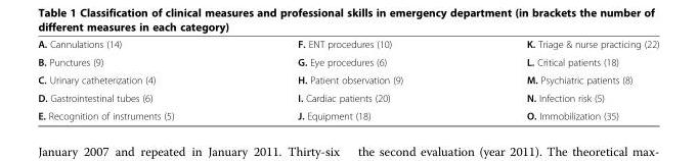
<table><tbody><tr><td>A. Cannulations (14)</td><td>F. ENT procedures (10)</td><td>K. Triage &amp; nurse practicing (22)</td></tr><tr><td>B. Punctures (9)</td><td>G. Eye procedures (6)</td><td>L. Critical patients (18)</td></tr><tr><td>C. Urinary catheterization (4)</td><td>H. Patient observation (9)</td><td>M. Psychiatric patients (8)</td></tr><tr><td>D. Gastrointestinal tubes (6)</td><td>I. Cardiac patients (20)</td><td>N. Infection risk (5)</td></tr><tr><td>E. Recognition of instruments (5)</td><td>J. Equipment (18)</td><td>O. Immobilization (35)</td></tr></tbody></table>